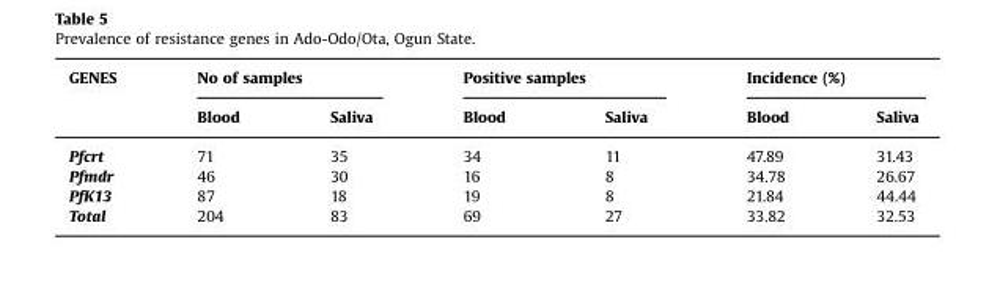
<table><thead><tr><td rowspan="2">GENES</td><td colspan="2">No of samples</td><td colspan="2">Positive samples</td><td colspan="2">Incidence (%)</td></tr><tr><td>Blood</td><td>Saliva</td><td>Blood</td><td>Saliva</td><td>Blood</td><td>Saliva</td></tr></thead><tbody><tr><td>Pfcrt</td><td>71</td><td>35</td><td>34</td><td>11</td><td>47.89</td><td>31.43</td></tr><tr><td>Pfmdr</td><td>46</td><td>30</td><td>16</td><td>8</td><td>34.78</td><td>26.67</td></tr><tr><td>PfK13</td><td>87</td><td>18</td><td>19</td><td>8</td><td>21.84</td><td>44.44</td></tr><tr><td>Total</td><td>204</td><td>83</td><td>69</td><td>27</td><td>33.82</td><td>32.53</td></tr></tbody></table>